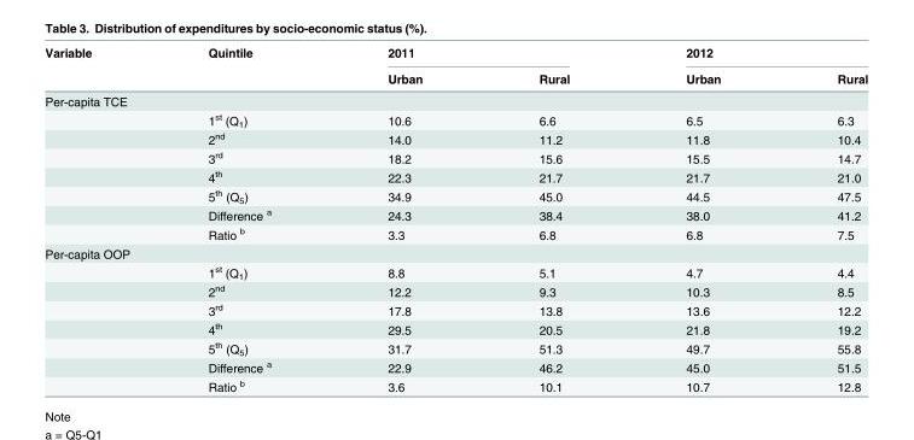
<table><thead><tr><td rowspan="2">Variable</td><td rowspan="2">Quintile</td><td colspan="2">2011</td><td colspan="2">2012</td></tr><tr><td>Urban</td><td>Rural</td><td>Urban</td><td>Rural</td></tr></thead><tbody><tr><td colspan="6">Per-capita TCE</td></tr><tr><td></td><td>1<sup>st</sup> (Q<sub>1</sub>)</td><td>10.6</td><td>6.6</td><td>6.5</td><td>6.3</td></tr><tr><td></td><td>2<sup>nd</sup></td><td>14.0</td><td>11.2</td><td>11.8</td><td>10.4</td></tr><tr><td></td><td>3<sup>rd</sup></td><td>18.2</td><td>15.6</td><td>15.5</td><td>14.7</td></tr><tr><td></td><td>4<sup>th</sup></td><td>22.3</td><td>21.7</td><td>21.7</td><td>21.0</td></tr><tr><td></td><td>5<sup>th</sup> (Q<sub>5</sub>)</td><td>34.9</td><td>45.0</td><td>44.5</td><td>47.5</td></tr><tr><td></td><td>Difference <sup>a</sup></td><td>24.3</td><td>38.4</td><td>38.0</td><td>41.2</td></tr><tr><td></td><td>Ratio <sup>b</sup></td><td>3.3</td><td>6.8</td><td>6.8</td><td>7.5</td></tr><tr><td colspan="6">Per-capita OOP</td></tr><tr><td></td><td>1<sup>st</sup> (Q<sub>1</sub>)</td><td>8.8</td><td>5.1</td><td>4.7</td><td>4.4</td></tr><tr><td></td><td>2<sup>nd</sup></td><td>12.2</td><td>9.3</td><td>10.3</td><td>8.5</td></tr><tr><td></td><td>3<sup>rd</sup></td><td>17.8</td><td>13.8</td><td>13.6</td><td>12.2</td></tr><tr><td></td><td>4<sup>th</sup></td><td>29.5</td><td>20.5</td><td>21.8</td><td>19.2</td></tr><tr><td></td><td>5<sup>th</sup> (Q<sub>5</sub>)</td><td>31.7</td><td>51.3</td><td>49.7</td><td>55.8</td></tr><tr><td></td><td>Difference <sup>a</sup></td><td>22.9</td><td>46.2</td><td>45.0</td><td>51.5</td></tr><tr><td></td><td>Ratio <sup>b</sup></td><td>3.6</td><td>10.1</td><td>10.7</td><td>12.8</td></tr></tbody></table>